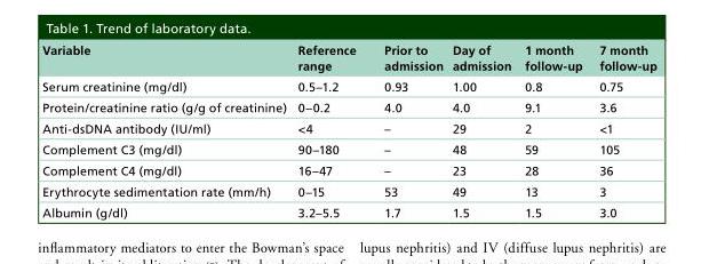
<table><thead><tr><td>Variable</td><td>Reference range</td><td>Prior to admission</td><td>Day of admission</td><td>1 month follow-up</td><td>7 month follow-up</td></tr></thead><tbody><tr><td>Serum creatinine (mg/dl)</td><td>0.5–1.2</td><td>0.93</td><td>1.00</td><td>0.8</td><td>0.75</td></tr><tr><td>Protein/creatinine ratio (g/g of creatinine)</td><td>0–0.2</td><td>4.0</td><td>4.0</td><td>9.1</td><td>3.6</td></tr><tr><td>Anti-dsDNA antibody (IU/ml)</td><td>&lt;4</td><td>–</td><td>29</td><td>2</td><td>&lt;1</td></tr><tr><td>Complement C3 (mg/dl)</td><td>90–180</td><td>–</td><td>48</td><td>59</td><td>105</td></tr><tr><td>Complement C4 (mg/dl)</td><td>16–47</td><td>–</td><td>23</td><td>28</td><td>36</td></tr><tr><td>Erythrocyte sedimentation rate (mm/h)</td><td>0–15</td><td>53</td><td>49</td><td>13</td><td>3</td></tr><tr><td>Albumin (g/dl)</td><td>3.2–5.5</td><td>1.7</td><td>1.5</td><td>1.5</td><td>3.0</td></tr></tbody></table>